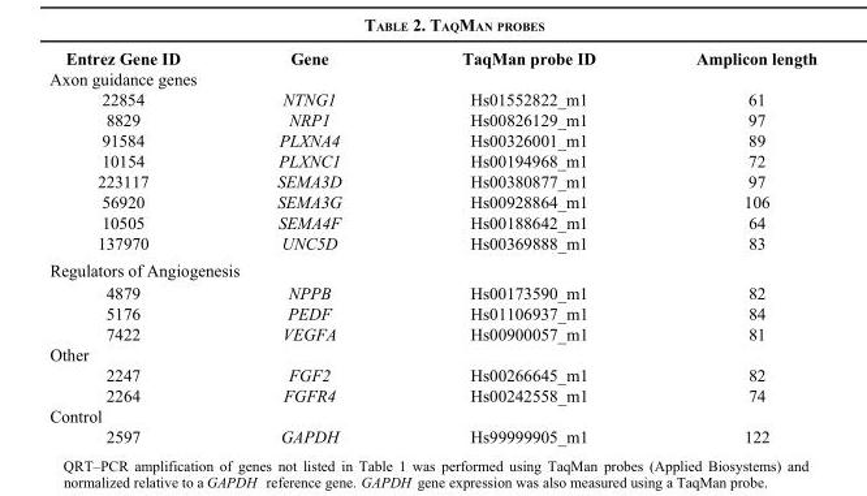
<table><thead><tr><td>Entrez Gene ID</td><td>Gene</td><td>TaqMan probe ID</td><td>Amplicon length</td></tr></thead><tbody><tr><td colspan="4">Axon guidance genes</td></tr><tr><td>22854</td><td>NTNG1</td><td>Hs01552822_m1</td><td>61</td></tr><tr><td>8829</td><td>NRP1</td><td>Hs00826129_m1</td><td>97</td></tr><tr><td>91584</td><td>PLXNA4</td><td>Hs00326001_m1</td><td>89</td></tr><tr><td>10154</td><td>PLXNC1</td><td>Hs00194968_m1</td><td>72</td></tr><tr><td>223117</td><td>SEMA3D</td><td>Hs00380877_m1</td><td>97</td></tr><tr><td>56920</td><td>SEMA3G</td><td>Hs00928864_m1</td><td>106</td></tr><tr><td>10505</td><td>SEMA4F</td><td>Hs00188642_m1</td><td>64</td></tr><tr><td>137970</td><td>UNC5D</td><td>Hs00369888_m1</td><td>83</td></tr><tr><td colspan="4">Regulators of Angiogenesis</td></tr><tr><td>4879</td><td>NPPB</td><td>Hs00173590_m1</td><td>82</td></tr><tr><td>5176</td><td>PEDF</td><td>Hs01106937_m1</td><td>84</td></tr><tr><td>7422</td><td>VEGFA</td><td>Hs00900057_m1</td><td>81</td></tr><tr><td colspan="4">Other</td></tr><tr><td>2247</td><td>FGF2</td><td>Hs00266645_m1</td><td>82</td></tr><tr><td>2264</td><td>FGFR4</td><td>Hs00242558_m1</td><td>74</td></tr><tr><td colspan="4">Control</td></tr><tr><td>2597</td><td>GAPDH</td><td>Hs99999905_m1</td><td>122</td></tr></tbody></table>